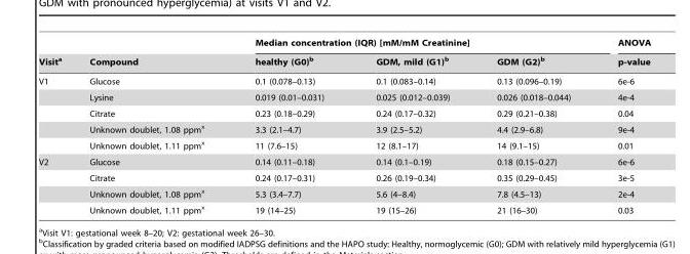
<table><thead><tr><td rowspan="2">Visit<sup>a</sup></td><td rowspan="2">Compound</td><td colspan="3">Median concentration (IQR) [mM/mM Creatinine]</td><td rowspan="2">ANOVA p-value</td></tr><tr><td>healthy (G0)<sup>b</sup></td><td>GDM, mild (G1)<sup>b</sup></td><td>GDM (G2)<sup>b</sup></td></tr></thead><tbody><tr><td rowspan="5">V1</td><td>Glucose</td><td>0.1 (0.078–0.13)</td><td>0.1 (0.083–0.14)</td><td>0.13 (0.096–0.19)</td><td>6e-6</td></tr><tr><td>Lysine</td><td>0.019 (0.01–0.031)</td><td>0.025 (0.012–0.039)</td><td>0.026 (0.018–0.044)</td><td>4e-4</td></tr><tr><td>Citrate</td><td>0.23 (0.18–0.29)</td><td>0.24 (0.17–0.32)</td><td>0.29 (0.21–0.38)</td><td>0.04</td></tr><tr><td>Unknown doublet, 1.08 ppm<sup>x</sup></td><td>3.3 (2.1–4.7)</td><td>3.9 (2.5–5.2)</td><td>4.4 (2.9–6.8)</td><td>9e-4</td></tr><tr><td>Unknown doublet, 1.11 ppm<sup>x</sup></td><td>11 (7.6–15)</td><td>12 (8.1–17)</td><td>14 (9.1–15)</td><td>0.01</td></tr><tr><td rowspan="4">V2</td><td>Glucose</td><td>0.14 (0.11–0.18)</td><td>0.14 (0.1–0.19)</td><td>0.18 (0.15–0.27)</td><td>6e-6</td></tr><tr><td>Citrate</td><td>0.24 (0.17–0.31)</td><td>0.26 (0.19–0.34)</td><td>0.35 (0.29–0.45)</td><td>3e-5</td></tr><tr><td>Unknown doublet, 1.08 ppm<sup>x</sup></td><td>5.3 (3.4–7.7)</td><td>5.6 (4–8.4)</td><td>7.8 (4.5–13)</td><td>2e-4</td></tr><tr><td>Unknown doublet, 1.11 ppm<sup>x</sup></td><td>19 (14–25)</td><td>19 (15–26)</td><td>21 (16–30)</td><td>0.03</td></tr></tbody></table>